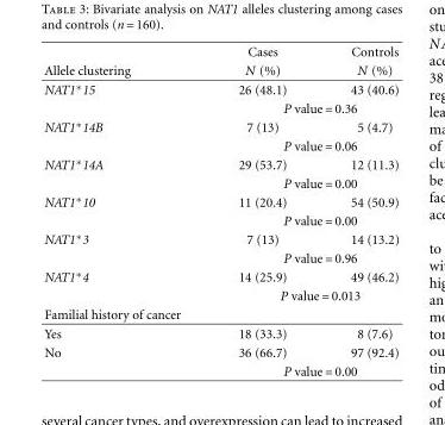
<table><thead><tr><td rowspan="2">Allele clustering</td><td rowspan="2">Cases N (%)</td><td rowspan="2">Controls N (%)</td></tr><tr></tr></thead><tbody><tr><td rowspan="2">NAT1∗15</td><td>26 (48.1)</td><td>43 (40.6)</td></tr><tr><td colspan="2">P value = 0.36</td></tr><tr><td rowspan="2">NAT1∗14B</td><td>7 (13)</td><td>5 (4.7)</td></tr><tr><td colspan="2">P value = 0.06</td></tr><tr><td rowspan="2">NAT1∗14A</td><td>29 (53.7)</td><td>12 (11.3)</td></tr><tr><td colspan="2">P value = 0.00</td></tr><tr><td rowspan="2">NAT1∗10</td><td>11 (20.4)</td><td>54 (50.9)</td></tr><tr><td colspan="2">P value = 0.00</td></tr><tr><td rowspan="2">NAT1∗3</td><td>7 (13)</td><td>14 (13.2)</td></tr><tr><td colspan="2">P value = 0.96</td></tr><tr><td rowspan="2">NAT1∗4</td><td>14 (25.9)</td><td>49 (46.2)</td></tr><tr><td colspan="2">P value = 0.013</td></tr><tr><td colspan="3">Familial history of cancer</td></tr><tr><td>Yes</td><td>18 (33.3)</td><td>8 (7.6)</td></tr><tr><td rowspan="2">No</td><td>36 (66.7)</td><td>97 (92.4)</td></tr><tr><td colspan="2">P value = 0.00</td></tr></tbody></table>